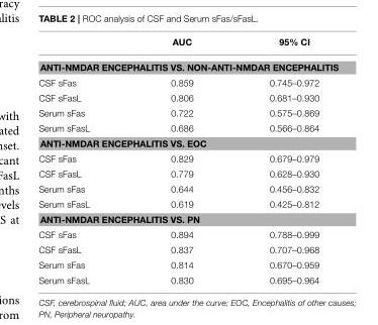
<table><thead><tr><td></td><td>AUC</td><td>95% CI</td></tr></thead><tbody><tr><td colspan="3">ANTI-NMDAR ENCEPHALITIS VS. NON-ANTI-NMDAR ENCEPHALITIS</td></tr><tr><td>CSF sFas</td><td>0.859</td><td>0.745–0.972</td></tr><tr><td>CSF sFasL</td><td>0.806</td><td>0.681–0.930</td></tr><tr><td>Serum sFas</td><td>0.722</td><td>0.575–0.869</td></tr><tr><td>Serum sFasL</td><td>0.686</td><td>0.566–0.864</td></tr><tr><td colspan="3">ANTI-NMDAR ENCEPHALITIS VS. EOC</td></tr><tr><td>CSF sFas</td><td>0.829</td><td>0.679–0.979</td></tr><tr><td>CSF sFasL</td><td>0.779</td><td>0.628–0.930</td></tr><tr><td>Serum sFas</td><td>0.644</td><td>0.456–0.832</td></tr><tr><td>Serum sFasL</td><td>0.619</td><td>0.425–0.812</td></tr><tr><td colspan="3">ANTI-NMDAR ENCEPHALITIS VS. PN</td></tr><tr><td>CSF sFas</td><td>0.894</td><td>0.788–0.999</td></tr><tr><td>CSF sFasL</td><td>0.837</td><td>0.707–0.968</td></tr><tr><td>Serum sFas</td><td>0.814</td><td>0.670–0.959</td></tr><tr><td>Serum sFasL</td><td>0.830</td><td>0.695–0.964</td></tr></tbody></table>